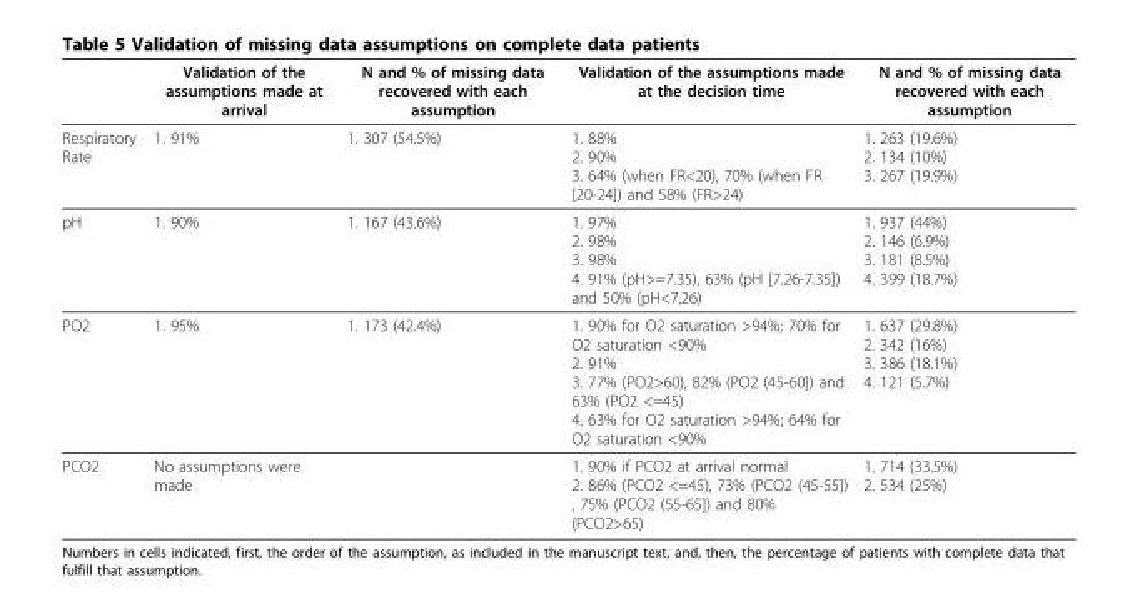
<table><thead><tr><td></td><td>Validation of the assumptions made at arrival</td><td>N and % of missing data recovered with each assumption</td><td>Validation of the assumptions made at the decision time</td><td>N and % of missing data recovered with each assumption</td></tr></thead><tbody><tr><td>Respiratory Rate</td><td>1. 91%</td><td>1. 307 (54.5%)</td><td>1. 88% 2. 90% 3. 64% (when FR&lt;20), 70% (when FR [20-24]) and 58% (FR&gt;24)</td><td>1. 263 (19.6%) 2. 134 (10%) 3. 267 (19.9%)</td></tr><tr><td>pH</td><td>1. 90%</td><td>1. 167 (43.6%)</td><td>1. 97% 2. 98% 3. 98% 4. 91% (pH&gt;=7.35), 63% (pH [7.26-7.35]) and 50% (pH&lt;7.26)</td><td>1. 937 (44%) 2. 146 (6.9%) 3. 181 (8.5%) 4. 399 (18.7%)</td></tr><tr><td>PO2</td><td>1. 95%</td><td>1. 173 (42.4%)</td><td>1. 90% for O2 saturation &gt;94%; 70% for O2 saturation &lt;90% 2. 91% 3. 77% (PO2&gt;60), 82% (PO2 (45-60]) and 63% (PO2 &lt;=45) 4. 63% for O2 saturation &gt;94%; 64% for O2 saturation &lt;90%</td><td>1. 637 (29.8%) 2. 342 (16%) 3. 386 (18.1%) 4. 121 (5.7%)</td></tr><tr><td>PCO2</td><td>No assumptions were made</td><td></td><td>1. 90% if PCO2 at arrival normal 2. 86% (PCO2 &lt;=45), 73% (PCO2 (45-55]) , 75% (PCO2 (55-65]) and 80% (PCO2&gt;65)</td><td>1. 714 (33.5%) 2. 534 (25%)</td></tr></tbody></table>